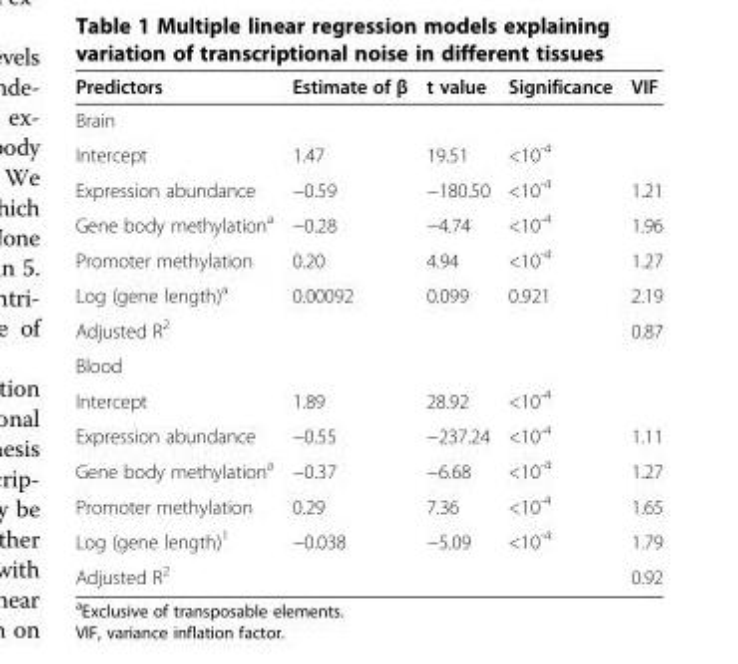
<table><thead><tr><td>Predictors</td><td>Estimate of β</td><td>t value</td><td>Significance</td><td>VIF</td></tr></thead><tbody><tr><td colspan="5">Brain</td></tr><tr><td>Intercept</td><td>1.47</td><td>19.51</td><td>&lt;10<sup>-4</sup></td><td></td></tr><tr><td>Expression abundance</td><td>−0.59</td><td>−180.50</td><td>&lt;10<sup>-4</sup></td><td>1.21</td></tr><tr><td>Gene body methylation<sup>a</sup></td><td>−0.28</td><td>−4.74</td><td>&lt;10<sup>-4</sup></td><td>1.96</td></tr><tr><td>Promoter methylation</td><td>0.20</td><td>4.94</td><td>&lt;10<sup>-4</sup></td><td>1.27</td></tr><tr><td>Log (gene length)<sup>a</sup></td><td>0.00092</td><td>0.099</td><td>0.921</td><td>2.19</td></tr><tr><td>Adjusted R<sup>2</sup></td><td></td><td></td><td></td><td>0.87</td></tr><tr><td colspan="5">Blood</td></tr><tr><td>Intercept</td><td>1.89</td><td>28.92</td><td>&lt;10<sup>-4</sup></td><td></td></tr><tr><td>Expression abundance</td><td>−0.55</td><td>−237.24</td><td>&lt;10<sup>-4</sup></td><td>1.11</td></tr><tr><td>Gene body methylation<sup>a</sup></td><td>−0.37</td><td>−6.68</td><td>&lt;10<sup>-4</sup></td><td>1.27</td></tr><tr><td>Promoter methylation</td><td>0.29</td><td>7.36</td><td>&lt;10<sup>-4</sup></td><td>1.65</td></tr><tr><td>Log (gene length)<sup>1</sup></td><td>−0.038</td><td>−5.09</td><td>&lt;10<sup>-4</sup></td><td>1.79</td></tr><tr><td>Adjusted R<sup>2</sup></td><td></td><td></td><td></td><td>0.92</td></tr></tbody></table>